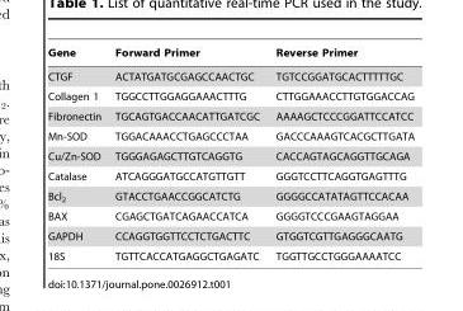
<table><thead><tr><td>Gene</td><td>Forward Primer</td><td>Reverse Primer</td></tr></thead><tbody><tr><td>CTGF</td><td>ACTATGATGCGAGCCAACTGC</td><td>TGTCCGGATGCACTTTTTGC</td></tr><tr><td>Collagen 1</td><td>TGGCCTTGGAGGAAACTTTG</td><td>CTTGGAAACCTTGTGGACCAG</td></tr><tr><td>Fibronectin</td><td>TGCAGTGACCAACATTGATCGC</td><td>AAAAGCTCCCGGATTCCATCC</td></tr><tr><td>Mn-SOD</td><td>TGGACAAACCTGAGCCCTAA</td><td>GACCCAAAGTCACGCTTGATA</td></tr><tr><td>Cu/Zn-SOD</td><td>TGGGAGAGCTTGTCAGGTG</td><td>CACCAGTAGCAGGTTGCAGA</td></tr><tr><td>Catalase</td><td>ATCAGGGATGCCATGTTGTT</td><td>GGGTCCTTCAGGTGAGTTTG</td></tr><tr><td>Bcl<sub>2</sub></td><td>GTACCTGAACCGGCATCTG</td><td>GGGGCCATATAGTTCCACAA</td></tr><tr><td>BAX</td><td>CGAGCTGATCAGAACCATCA</td><td>GGGGTCCCGAAGTAGGAA</td></tr><tr><td>GAPDH</td><td>CCAGGTGGTTCCTCTGACTTC</td><td>GTGGTCGTTGAGGGCAATG</td></tr><tr><td>18S</td><td>TGTTCACCATGAGGCTGAGATC</td><td>TGGTTGCCTGGGAAAATCC</td></tr></tbody></table>